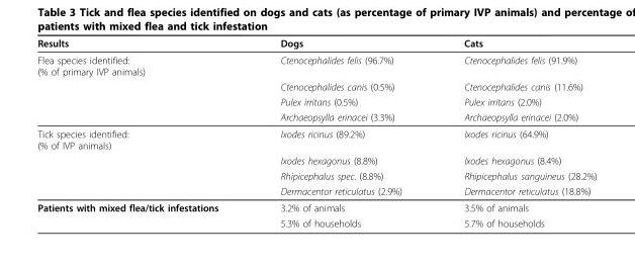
<table><thead><tr><td>Results</td><td>Dogs</td><td>Cats</td></tr></thead><tbody><tr><td rowspan="4">Flea species identified: (% of primary IVP animals)</td><td>Ctenocephalides felis (96.7%)</td><td>Ctenocephalides felis (91.9%)</td></tr><tr><td>Ctenocephalides canis (0.5%)</td><td>Ctenocephalides canis (11.6%)</td></tr><tr><td>Pulex irritans (0.5%)</td><td>Pulex irritans (2.0%)</td></tr><tr><td>Archaeopsylla erinacei (3.3%)</td><td>Archaeopsylla erinacei (2.0%)</td></tr><tr><td rowspan="4">Tick species identified: (% of IVP animals)</td><td>Ixodes ricinus (89.2%)</td><td>Ixodes ricinus (64.9%)</td></tr><tr><td>Ixodes hexagonus (8.8%)</td><td>Ixodes hexagonus (8.4%)</td></tr><tr><td>Rhipicephalus spec. (8.8%)</td><td>Rhipicephalus sanguineus (28.2%)</td></tr><tr><td>Dermacentor reticulatus (2.9%)</td><td>Dermacentor reticulatus (18.8%)</td></tr><tr><td rowspan="2">Patients with mixed flea/tick infestations</td><td>3.2% of animals</td><td>3.5% of animals</td></tr><tr><td>5.3% of households</td><td>5.7% of households</td></tr></tbody></table>